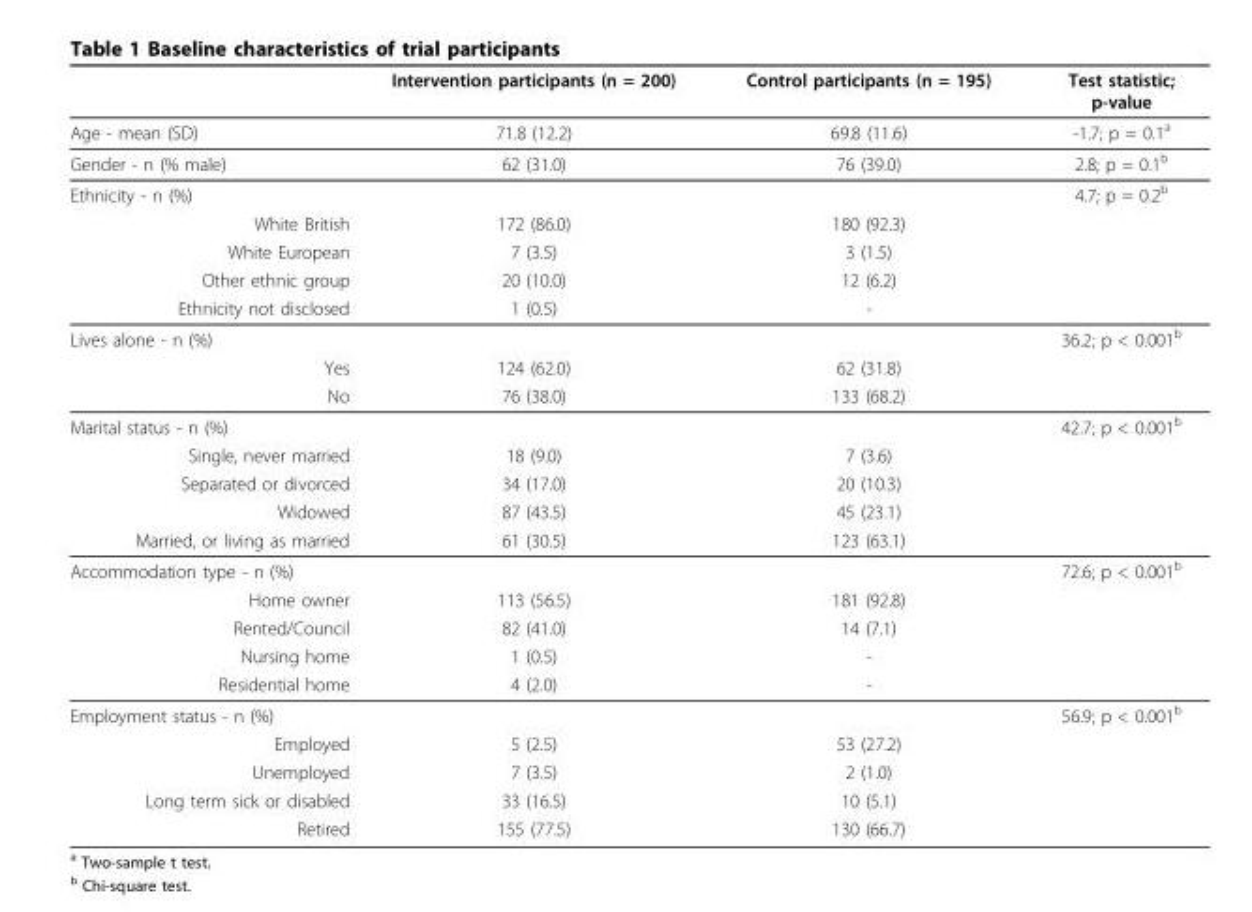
<table><thead><tr><td></td><td>Intervention participants (n = 200)</td><td>Control participants (n = 195)</td><td>Test statistic; p-value</td></tr></thead><tbody><tr><td>Age - mean (SD)</td><td>71.8 (12.2)</td><td>69.8 (11.6)</td><td>-1.7; p = 0.1<sup>a</sup></td></tr><tr><td>Gender - n (% male)</td><td>62 (31.0)</td><td>76 (39.0)</td><td>2.8; p = 0.1<sup>b</sup></td></tr><tr><td>Ethnicity - n (%)</td><td></td><td></td><td>4.7; p = 0.2<sup>b</sup></td></tr><tr><td>White British</td><td>172 (86.0)</td><td>180 (92.3)</td><td></td></tr><tr><td>White European</td><td>7 (3.5)</td><td>3 (1.5)</td><td></td></tr><tr><td>Other ethnic group</td><td>20 (10.0)</td><td>12 (6.2)</td><td></td></tr><tr><td>Ethnicity not disclosed</td><td>1 (0.5)</td><td>-</td><td></td></tr><tr><td>Lives alone - n (%)</td><td></td><td></td><td>36.2; p &lt; 0.001<sup>b</sup></td></tr><tr><td>Yes</td><td>124 (62.0)</td><td>62 (31.8)</td><td></td></tr><tr><td>No</td><td>76 (38.0)</td><td>133 (68.2)</td><td></td></tr><tr><td>Marital status - n (%)</td><td></td><td></td><td>42.7; p &lt; 0.001<sup>b</sup></td></tr><tr><td>Single, never married</td><td>18 (9.0)</td><td>7 (3.6)</td><td></td></tr><tr><td>Separated or divorced</td><td>34 (17.0)</td><td>20 (10.3)</td><td></td></tr><tr><td>Widowed</td><td>87 (43.5)</td><td>45 (23.1)</td><td></td></tr><tr><td>Married, or living as married</td><td>61 (30.5)</td><td>123 (63.1)</td><td></td></tr><tr><td>Accommodation type - n (%)</td><td></td><td></td><td>72.6; p &lt; 0.001<sup>b</sup></td></tr><tr><td>Home owner</td><td>113 (56.5)</td><td>181 (92.8)</td><td></td></tr><tr><td>Rented/Council</td><td>82 (41.0)</td><td>14 (7.1)</td><td></td></tr><tr><td>Nursing home</td><td>1 (0.5)</td><td>-</td><td></td></tr><tr><td>Residential home</td><td>4 (2.0)</td><td>-</td><td></td></tr><tr><td>Employment status - n (%)</td><td></td><td></td><td>56.9; p &lt; 0.001<sup>b</sup></td></tr><tr><td>Employed</td><td>5 (2.5)</td><td>53 (27.2)</td><td></td></tr><tr><td>Unemployed</td><td>7 (3.5)</td><td>2 (1.0)</td><td></td></tr><tr><td>Long term sick or disabled</td><td>33 (16.5)</td><td>10 (5.1)</td><td></td></tr><tr><td>Retired</td><td>155 (77.5)</td><td>130 (66.7)</td><td></td></tr></tbody></table>